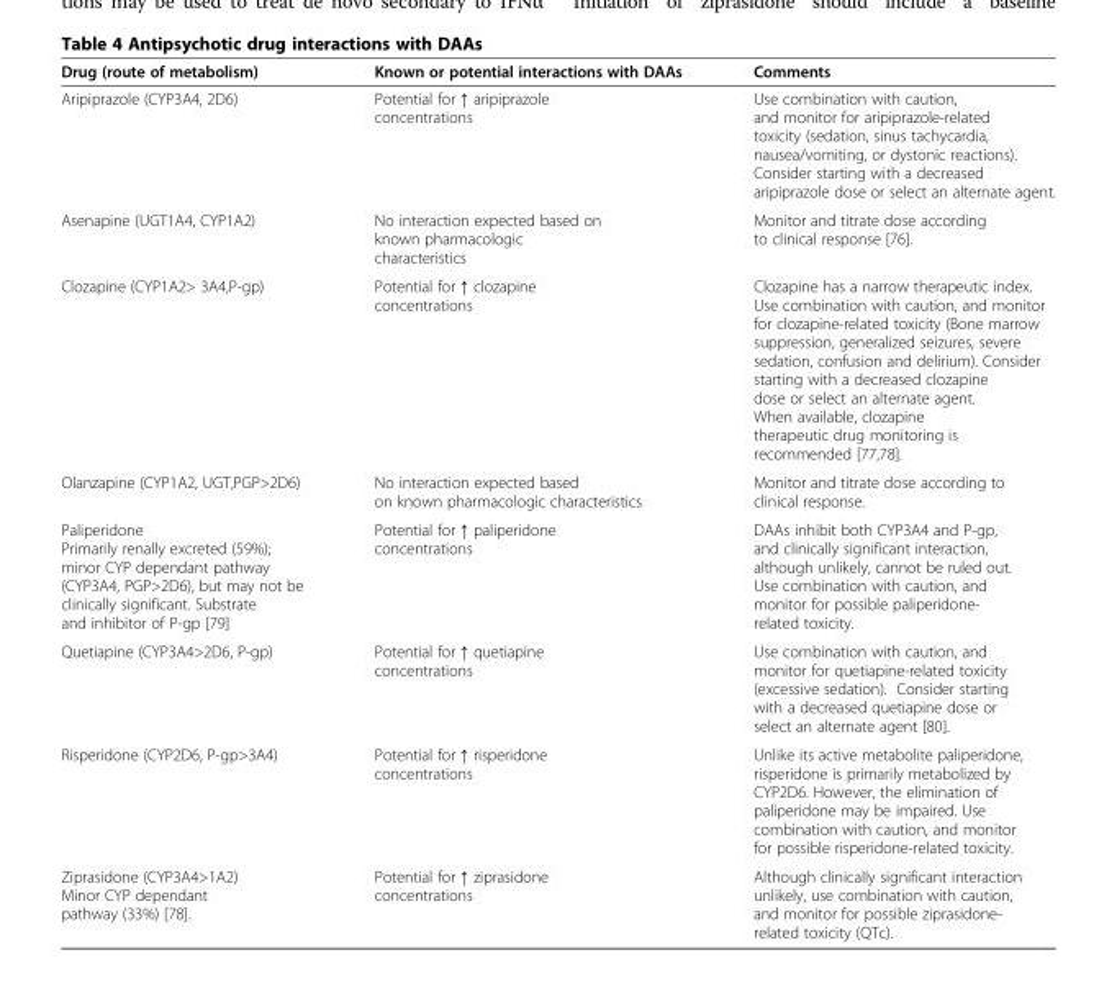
<table><thead><tr><td>Drug (route of metabolism)</td><td>Known or potential interactions with DAAs</td><td>Comments</td></tr></thead><tbody><tr><td>Aripiprazole (CYP3A4, 2D6)</td><td>Potential for ↑ aripiprazole concentrations</td><td>Use combination with caution, and monitor for aripiprazole-related toxicity (sedation, sinus tachycardia, nausea/vomiting, or dystonic reactions). Consider starting with a decreased aripiprazole dose or select an alternate agent.</td></tr><tr><td>Asenapine (UGT1A4, CYP1A2)</td><td>No interaction expected based on known pharmacologic characteristics</td><td>Monitor and titrate dose according to clinical response [76].</td></tr><tr><td>Clozapine (CYP1A2&gt; 3A4,P-gp)</td><td>Potential for ↑ clozapine concentrations</td><td>Clozapine has a narrow therapeutic index. Use combination with caution, and monitor for clozapine-related toxicity (Bone marrow suppression, generalized seizures, severe sedation, confusion and delirium). Consider starting with a decreased clozapine dose or select an alternate agent. When available, clozapine therapeutic drug monitoring is recommended [77,78].</td></tr><tr><td>Olanzapine (CYP1A2, UGT,PGP&gt;2D6)</td><td>No interaction expected based on known pharmacologic characteristics</td><td>Monitor and titrate dose according to clinical response.</td></tr><tr><td>Paliperidone Primarily renally excreted (59%); minor CYP dependant pathway (CYP3A4, PGP&gt;2D6), but may not be clinically significant. Substrate and inhibitor of P-gp [79]</td><td>Potential for ↑ paliperidone concentrations</td><td>DAAs inhibit both CYP3A4 and P-gp, and clinically significant interaction, although unlikely, cannot be ruled out. Use combination with caution, and monitor for possible paliperidone- related toxicity.</td></tr><tr><td>Quetiapine (CYP3A4&gt;2D6, P-gp)</td><td>Potential for ↑ quetiapine concentrations</td><td>Use combination with caution, and monitor for quetiapine-related toxicity (excessive sedation). Consider starting with a decreased quetiapine dose or select an alternate agent [80].</td></tr><tr><td>Risperidone (CYP2D6, P-gp&gt;3A4)</td><td>Potential for ↑ risperidone concentrations</td><td>Unlike its active metabolite paliperidone, risperidone is primarily metabolized by CYP2D6. However, the elimination of paliperidone may be impaired. Use combination with caution, and monitor for possible risperidone-related toxicity.</td></tr><tr><td>Ziprasidone (CYP3A4&gt;1A2) Minor CYP dependant pathway (33%) [78].</td><td>Potential for ↑ ziprasidone concentrations</td><td>Although clinically significant interaction unlikely, use combination with caution, and monitor for possible ziprasidone- related toxicity (QTc).</td></tr></tbody></table>